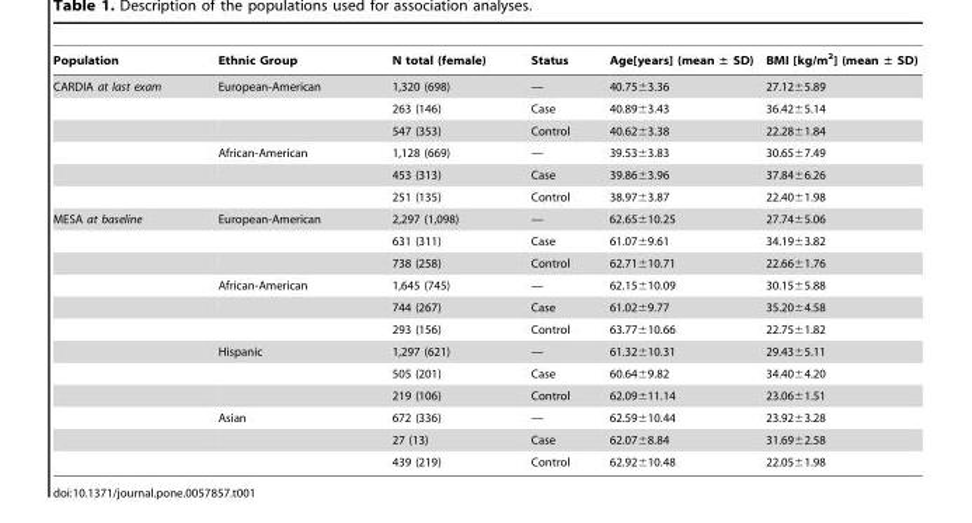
<table><thead><tr><td>Population</td><td>Ethnic Group</td><td>N total (female)</td><td>Status</td><td>Age[years] (mean ± SD)</td><td>BMI [kg/m<sup>2</sup>] (mean ± SD)</td></tr></thead><tbody><tr><td rowspan="6">CARDIA at last exam</td><td>European-American</td><td>1,320 (698)</td><td>—</td><td>40.75±3.36</td><td>27.12±5.89</td></tr><tr><td></td><td>263 (146)</td><td>Case</td><td>40.89±3.43</td><td>36.42±5.14</td></tr><tr><td></td><td>547 (353)</td><td>Control</td><td>40.62±3.38</td><td>22.28±1.84</td></tr><tr><td>African-American</td><td>1,128 (669)</td><td>—</td><td>39.53±3.83</td><td>30.65±7.49</td></tr><tr><td></td><td>453 (313)</td><td>Case</td><td>39.86±3.96</td><td>37.84±6.26</td></tr><tr><td></td><td>251 (135)</td><td>Control</td><td>38.97±3.87</td><td>22.40±1.98</td></tr><tr><td rowspan="12">MESA at baseline</td><td>European-American</td><td>2,297 (1,098)</td><td>—</td><td>62.65±10.25</td><td>27.74±5.06</td></tr><tr><td></td><td>631 (311)</td><td>Case</td><td>61.07±9.61</td><td>34.19±3.82</td></tr><tr><td></td><td>738 (258)</td><td>Control</td><td>62.71±10.71</td><td>22.66±1.76</td></tr><tr><td>African-American</td><td>1,645 (745)</td><td>—</td><td>62.15±10.09</td><td>30.15±5.88</td></tr><tr><td></td><td>744 (267)</td><td>Case</td><td>61.02±9.77</td><td>35.20±4.58</td></tr><tr><td></td><td>293 (156)</td><td>Control</td><td>63.77±10.66</td><td>22.75±1.82</td></tr><tr><td>Hispanic</td><td>1,297 (621)</td><td>—</td><td>61.32±10.31</td><td>29.43±5.11</td></tr><tr><td></td><td>505 (201)</td><td>Case</td><td>60.64±9.82</td><td>34.40±4.20</td></tr><tr><td></td><td>219 (106)</td><td>Control</td><td>62.09±11.14</td><td>23.06±1.51</td></tr><tr><td>Asian</td><td>672 (336)</td><td>—</td><td>62.59±10.44</td><td>23.92±3.28</td></tr><tr><td></td><td>27 (13)</td><td>Case</td><td>62.07±8.84</td><td>31.69±2.58</td></tr><tr><td></td><td>439 (219)</td><td>Control</td><td>62.92±10.48</td><td>22.05±1.98</td></tr></tbody></table>